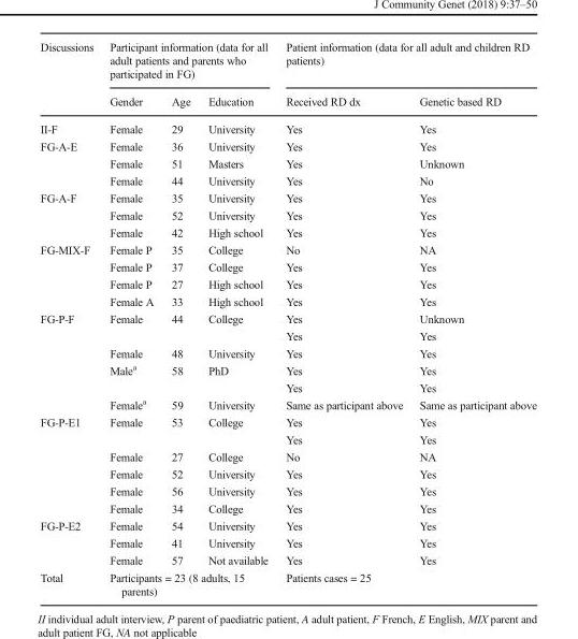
<table><thead><tr><td rowspan="2">Discussions</td><td colspan="3">Participant information (data for all adult patients and parents who participated in FG)</td><td colspan="2">Patient information (data for all adult and children RD patients)</td></tr><tr><td>Gender</td><td>Age</td><td>Education</td><td>Received RD dx</td><td>Genetic based RD</td></tr></thead><tbody><tr><td>II-F</td><td>Female</td><td>29</td><td>University</td><td>Yes</td><td>Yes</td></tr><tr><td rowspan="3">FG-A-E</td><td>Female</td><td>36</td><td>University</td><td>Yes</td><td>Yes</td></tr><tr><td>Female</td><td>51</td><td>Masters</td><td>Yes</td><td>Unknown</td></tr><tr><td>Female</td><td>44</td><td>University</td><td>Yes</td><td>No</td></tr><tr><td rowspan="3">FG-A-F</td><td>Female</td><td>35</td><td>University</td><td>Yes</td><td>Yes</td></tr><tr><td>Female</td><td>52</td><td>University</td><td>Yes</td><td>Yes</td></tr><tr><td>Female</td><td>42</td><td>High school</td><td>Yes</td><td>Yes</td></tr><tr><td rowspan="4">FG-MIX-F</td><td>Female P</td><td>35</td><td>College</td><td>No</td><td>NA</td></tr><tr><td>Female P</td><td>37</td><td>College</td><td>Yes</td><td>Yes</td></tr><tr><td>Female P</td><td>27</td><td>High school</td><td>Yes</td><td>Yes</td></tr><tr><td>Female A</td><td>33</td><td>High school</td><td>Yes</td><td>Yes</td></tr><tr><td rowspan="6">FG-P-F</td><td rowspan="2">Female</td><td rowspan="2">44</td><td rowspan="2">College</td><td>Yes</td><td>Unknown</td></tr><tr><td>Yes</td><td>Yes</td></tr><tr><td>Female</td><td>48</td><td>University</td><td>Yes</td><td>Yes</td></tr><tr><td rowspan="2">Male<sup>a</sup></td><td rowspan="2">58</td><td rowspan="2">PhD</td><td>Yes</td><td>Yes</td></tr><tr><td>Yes</td><td>Yes</td></tr><tr><td>Female<sup>a</sup></td><td>59</td><td>University</td><td>Same as participant above</td><td>Same as participant above</td></tr><tr><td rowspan="6">FG-P-E1</td><td rowspan="2">Female</td><td rowspan="2">53</td><td rowspan="2">College</td><td>Yes</td><td>Yes</td></tr><tr><td>Yes</td><td>Yes</td></tr><tr><td>Female</td><td>27</td><td>College</td><td>No</td><td>NA</td></tr><tr><td>Female</td><td>52</td><td>University</td><td>Yes</td><td>Yes</td></tr><tr><td>Female</td><td>56</td><td>University</td><td>Yes</td><td>Yes</td></tr><tr><td>Female</td><td>34</td><td>College</td><td>Yes</td><td>Yes</td></tr><tr><td rowspan="3">FG-P-E2</td><td>Female</td><td>54</td><td>University</td><td>Yes</td><td>Yes</td></tr><tr><td>Female</td><td>41</td><td>University</td><td>Yes</td><td>Yes</td></tr><tr><td>Female</td><td>57</td><td>Not available</td><td>Yes</td><td>Yes</td></tr><tr><td>Total</td><td colspan="3">Participants = 23 (8 adults, 15 parents)</td><td colspan="2">Patients cases = 25</td></tr></tbody></table>